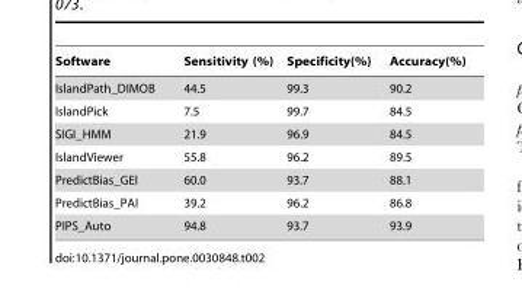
<table><thead><tr><td>Software</td><td>Sensitivity (%)</td><td>Specificity(%)</td><td>Accuracy(%)</td></tr></thead><tbody><tr><td>IslandPath_DIMOB</td><td>44.5</td><td>99.3</td><td>90.2</td></tr><tr><td>IslandPick</td><td>7.5</td><td>99.7</td><td>84.5</td></tr><tr><td>SIGI_HMM</td><td>21.9</td><td>96.9</td><td>84.5</td></tr><tr><td>IslandViewer</td><td>55.8</td><td>96.2</td><td>89.5</td></tr><tr><td>PredictBias_GEI</td><td>60.0</td><td>93.7</td><td>88.1</td></tr><tr><td>PredictBias_PAI</td><td>39.2</td><td>96.2</td><td>86.8</td></tr><tr><td>PIPS_Auto</td><td>94.8</td><td>93.7</td><td>93.9</td></tr></tbody></table>